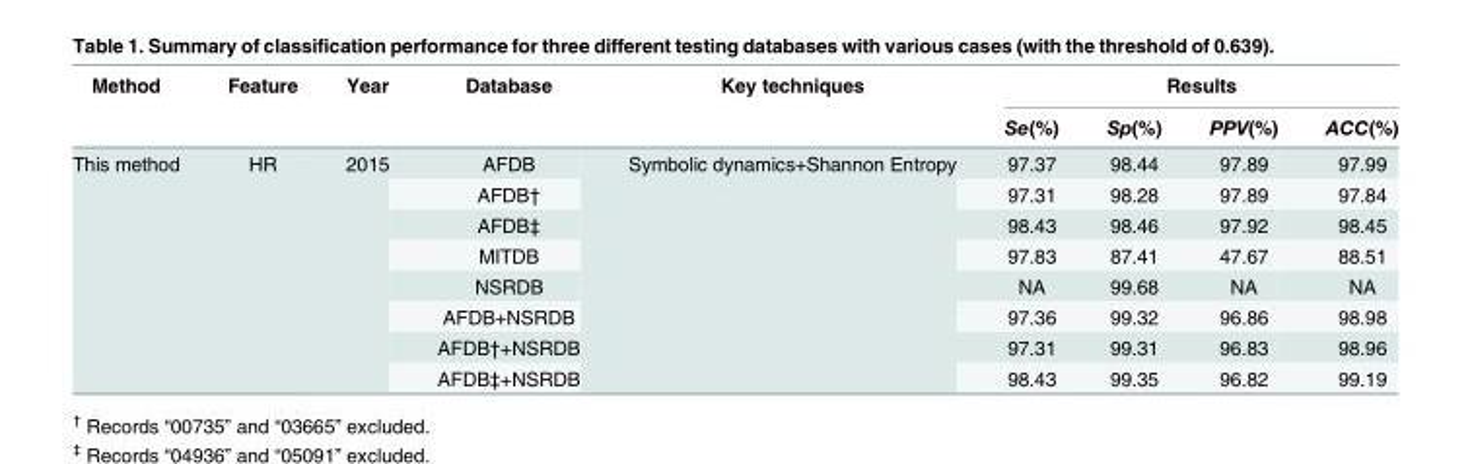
<table><thead><tr><td rowspan="2">Method</td><td rowspan="2">Feature</td><td rowspan="2">Year</td><td rowspan="2">Database</td><td rowspan="2">Key techniques</td><td colspan="4">Results</td></tr><tr><td>Se(%)</td><td>Sp(%)</td><td>PPV(%)</td><td>ACC(%)</td></tr></thead><tbody><tr><td rowspan="8">This method</td><td rowspan="8">HR</td><td rowspan="8">2015</td><td>AFDB</td><td rowspan="8">Symbolic dynamics+Shannon Entropy</td><td>97.37</td><td>98.44</td><td>97.89</td><td>97.99</td></tr><tr><td>AFDB†</td><td>97.31</td><td>98.28</td><td>97.89</td><td>97.84</td></tr><tr><td>AFDB‡</td><td>98.43</td><td>98.46</td><td>97.92</td><td>98.45</td></tr><tr><td>MITDB</td><td>97.83</td><td>87.41</td><td>47.67</td><td>88.51</td></tr><tr><td>NSRDB</td><td>NA</td><td>99.68</td><td>NA</td><td>NA</td></tr><tr><td>AFDB+NSRDB</td><td>97.36</td><td>99.32</td><td>96.86</td><td>98.98</td></tr><tr><td>AFDB†+NSRDB</td><td>97.31</td><td>99.31</td><td>96.83</td><td>98.96</td></tr><tr><td>AFDB‡+NSRDB</td><td>98.43</td><td>99.35</td><td>96.82</td><td>99.19</td></tr></tbody></table>